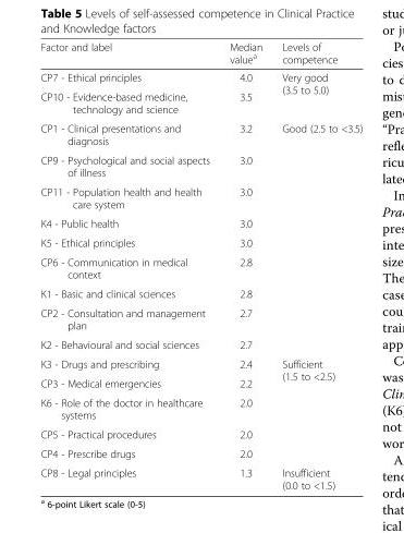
<table><thead><tr><td>Factor and label</td><td>Median value<sup>a</sup></td><td>Levels of competence</td></tr></thead><tbody><tr><td>CP7 - Ethical principles</td><td>4.0</td><td rowspan="2">Very good (3.5 to 5.0)</td></tr><tr><td>CP10 - Evidence-based medicine, technology and science</td><td>3.5</td></tr><tr><td>CP1 - Clinical presentations and diagnosis</td><td>3.2</td><td rowspan="9">Good (2.5 to &lt;3.5)</td></tr><tr><td>CP9 - Psychological and social aspects of illness</td><td>3.0</td></tr><tr><td>CP11 - Population health and health care system</td><td>3.0</td></tr><tr><td>K4 - Public health</td><td>3.0</td></tr><tr><td>K5 - Ethical principles</td><td>3.0</td></tr><tr><td>CP6 - Communication in medical context</td><td>2.8</td></tr><tr><td>K1 - Basic and clinical sciences</td><td>2.8</td></tr><tr><td>CP2 - Consultation and management plan</td><td>2.7</td></tr><tr><td>K2 - Behavioural and social sciences</td><td>2.7</td></tr><tr><td>K3 - Drugs and prescribing</td><td>2.4</td><td rowspan="5">Sufficient (1.5 to &lt;2.5)</td></tr><tr><td>CP3 - Medical emergencies</td><td>2.2</td></tr><tr><td>K6 - Role of the doctor in healthcare systems</td><td>2.0</td></tr><tr><td>CP5 - Practical procedures</td><td>2.0</td></tr><tr><td>CP4 - Prescribe drugs</td><td>2.0</td></tr><tr><td>CP8 - Legal principles</td><td>1.3</td><td>Insufficient (0.0 to &lt;1.5)</td></tr></tbody></table>